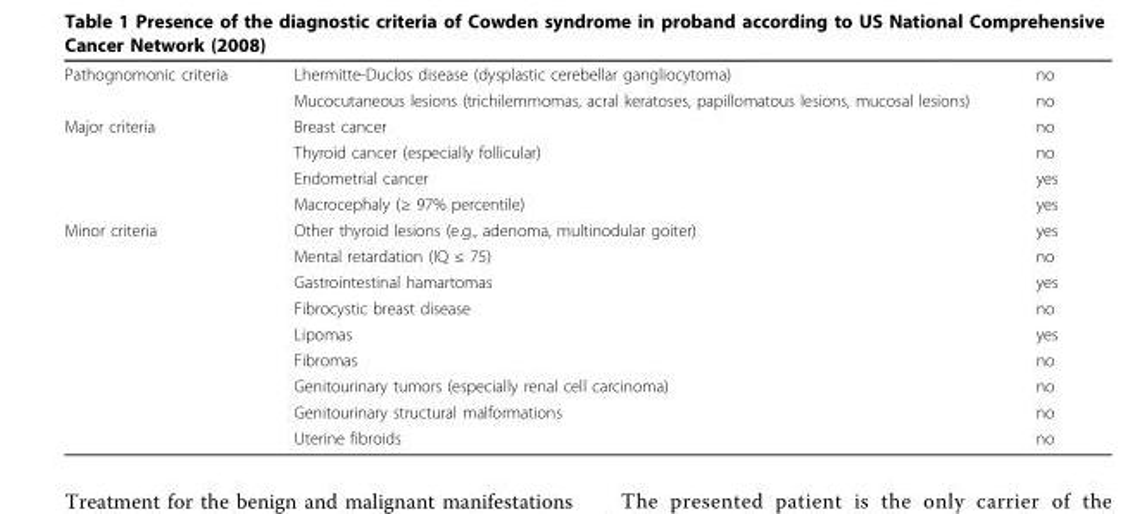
<table><tbody><tr><td rowspan="2">Pathognomonic criteria</td><td>Lhermitte-Duclos disease (dysplastic cerebellar gangliocytoma)</td><td>no</td></tr><tr><td>Mucocutaneous lesions (trichilemmomas, acral keratoses, papillomatous lesions, mucosal lesions)</td><td>no</td></tr><tr><td rowspan="4">Major criteria</td><td>Breast cancer</td><td>no</td></tr><tr><td>Thyroid cancer (especially follicular)</td><td>no</td></tr><tr><td>Endometrial cancer</td><td>yes</td></tr><tr><td>Macrocephaly (≥ 97% percentile)</td><td>yes</td></tr><tr><td rowspan="9">Minor criteria</td><td>Other thyroid lesions (e.g., adenoma, multinodular goiter)</td><td>yes</td></tr><tr><td>Mental retardation (IQ ≤ 75)</td><td>no</td></tr><tr><td>Gastrointestinal hamartomas</td><td>yes</td></tr><tr><td>Fibrocystic breast disease</td><td>no</td></tr><tr><td>Lipomas</td><td>yes</td></tr><tr><td>Fibromas</td><td>no</td></tr><tr><td>Genitourinary tumors (especially renal cell carcinoma)</td><td>no</td></tr><tr><td>Genitourinary structural malformations</td><td>no</td></tr><tr><td>Uterine fibroids</td><td>no</td></tr></tbody></table>